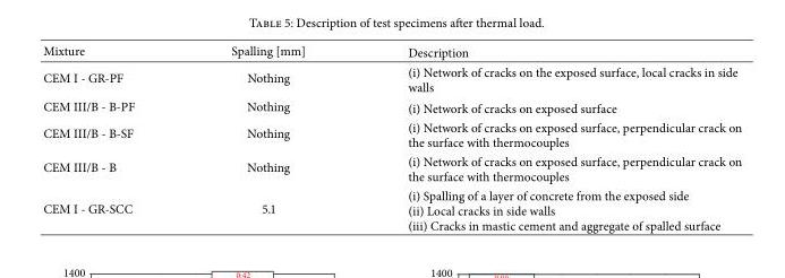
<table><thead><tr><td>Mixture</td><td>Spalling [mm]</td><td>Description</td></tr></thead><tbody><tr><td>CEM I - GR-PF</td><td>Nothing</td><td>(i) Network of cracks on the exposed surface, local cracks in side walls</td></tr><tr><td>CEM III/B - B-PF</td><td>Nothing</td><td>(i) Network of cracks on exposed surface</td></tr><tr><td>CEM III/B - B-SF</td><td>Nothing</td><td>(i) Network of cracks on exposed surface, perpendicular crack on the surface with thermocouples</td></tr><tr><td>CEM III/B - B</td><td>Nothing</td><td>(i) Network of cracks on exposed surface, perpendicular crack on the surface with thermocouples</td></tr><tr><td>CEM I - GR-SCC</td><td>5.1</td><td>(i) Spalling of a layer of concrete from the exposed side (ii) Local cracks in side walls (iii) Cracks in mastic cement and aggregate of spalled surface</td></tr></tbody></table>